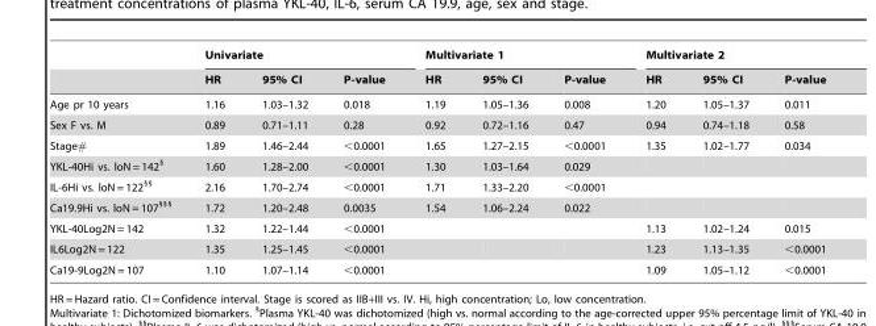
<table><thead><tr><td rowspan="2"></td><td colspan="3">Univariate</td><td colspan="3">Multivariate 1</td><td colspan="3">Multivariate 2</td></tr><tr><td>HR</td><td>95% CI</td><td>P-value</td><td>HR</td><td>95% CI</td><td>P-value</td><td>HR</td><td>95% CI</td><td>P-value</td></tr></thead><tbody><tr><td>Age pr 10 years</td><td>1.16</td><td>1.03–1.32</td><td>0.018</td><td>1.19</td><td>1.05–1.36</td><td>0.008</td><td>1.20</td><td>1.05–1.37</td><td>0.011</td></tr><tr><td>Sex F vs. M</td><td>0.89</td><td>0.71–1.11</td><td>0.28</td><td>0.92</td><td>0.72–1.16</td><td>0.47</td><td>0.94</td><td>0.74–1.18</td><td>0.58</td></tr><tr><td>Stage#</td><td>1.89</td><td>1.46–2.44</td><td>&lt;0.0001</td><td>1.65</td><td>1.27–2.15</td><td>&lt;0.0001</td><td>1.35</td><td>1.02–1.77</td><td>0.034</td></tr><tr><td>YKL-40Hi vs. loN = 142<sup>§</sup></td><td>1.60</td><td>1.28–2.00</td><td>&lt;0.0001</td><td>1.30</td><td>1.03–1.64</td><td>0.029</td><td></td><td></td><td></td></tr><tr><td>IL-6Hi vs. loN = 122<sup>§§</sup></td><td>2.16</td><td>1.70–2.74</td><td>&lt;0.0001</td><td>1.71</td><td>1.33–2.20</td><td>&lt;0.0001</td><td></td><td></td><td></td></tr><tr><td>Ca19.9Hi vs. loN = 107<sup>§§§</sup></td><td>1.72</td><td>1.20–2.48</td><td>0.0035</td><td>1.54</td><td>1.06–2.24</td><td>0.022</td><td></td><td></td><td></td></tr><tr><td>YKL-40Log2N = 142</td><td>1.32</td><td>1.22–1.44</td><td>&lt;0.0001</td><td></td><td></td><td></td><td>1.13</td><td>1.02–1.24</td><td>0.015</td></tr><tr><td>IL6Log2N = 122</td><td>1.35</td><td>1.25–1.45</td><td>&lt;0.0001</td><td></td><td></td><td></td><td>1.23</td><td>1.13–1.35</td><td>&lt;0.0001</td></tr><tr><td>Ca19-9Log2N = 107</td><td>1.10</td><td>1.07–1.14</td><td>&lt;0.0001</td><td></td><td></td><td></td><td>1.09</td><td>1.05–1.12</td><td>&lt;0.0001</td></tr></tbody></table>